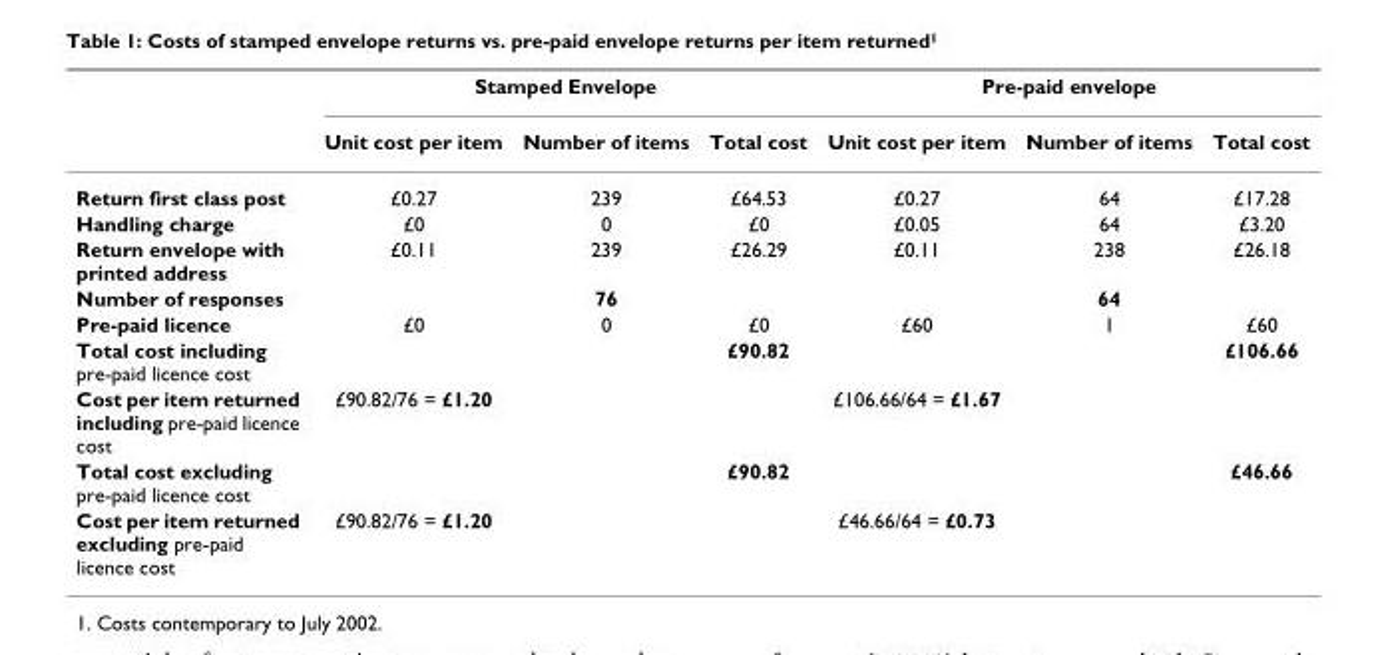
<table><thead><tr><td rowspan="2"></td><td colspan="3">Stamped Envelope</td><td colspan="3">Pre-paid envelope</td></tr><tr><td>Unit cost per item</td><td>Number of items</td><td>Total cost</td><td>Unit cost per item</td><td>Number of items</td><td>Total cost</td></tr></thead><tbody><tr><td>Return first class post</td><td>£0.27</td><td>239</td><td>£64.53</td><td>£0.27</td><td>64</td><td>£17.28</td></tr><tr><td>Handling charge</td><td>£0</td><td>0</td><td>£0</td><td>£0.05</td><td>64</td><td>£3.20</td></tr><tr><td>Return envelope with printed address</td><td>£0.11</td><td>239</td><td>£26.29</td><td>£0.11</td><td>238</td><td>£26.18</td></tr><tr><td>Number of responses</td><td></td><td>76</td><td></td><td></td><td>64</td><td></td></tr><tr><td>Pre-paid licence</td><td>£0</td><td>0</td><td>£0</td><td>£60</td><td>1</td><td>£60</td></tr><tr><td>Total cost including pre-paid licence cost</td><td></td><td></td><td>£90.82</td><td></td><td></td><td>£106.66</td></tr><tr><td>Cost per item returned including pre-paid licence cost</td><td>£90.82/76 = £1.20</td><td></td><td></td><td>£106.66/64 = £1.67</td><td></td><td></td></tr><tr><td>Total cost excluding pre-paid licence cost</td><td></td><td></td><td>£90.82</td><td></td><td></td><td>£46.66</td></tr><tr><td>Cost per item returned excluding pre-paid licence cost</td><td>£90.82/76 = £1.20</td><td></td><td></td><td>£46.66/64 = £0.73</td><td></td><td></td></tr></tbody></table>